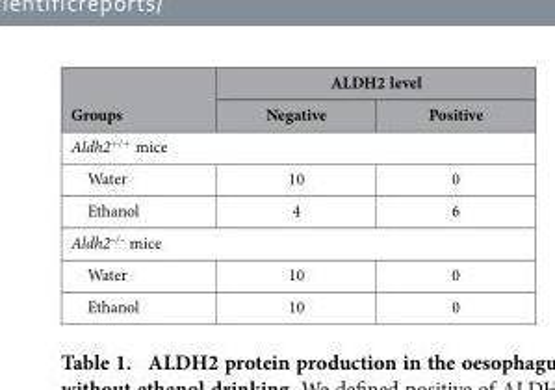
<table><thead><tr><td rowspan="2">Groups</td><td colspan="2">ALDH2 level</td></tr><tr><td>Negative</td><td>Positive</td></tr></thead><tbody><tr><td colspan="3">Aldh2<sup>+/+</sup> mice</td></tr><tr><td>Water</td><td>10</td><td>0</td></tr><tr><td>Ethanol</td><td>4</td><td>6</td></tr><tr><td colspan="3">Aldh2<sup>–/–</sup> mice</td></tr><tr><td>Water</td><td>10</td><td>0</td></tr><tr><td>Ethanol</td><td>10</td><td>0</td></tr></tbody></table>